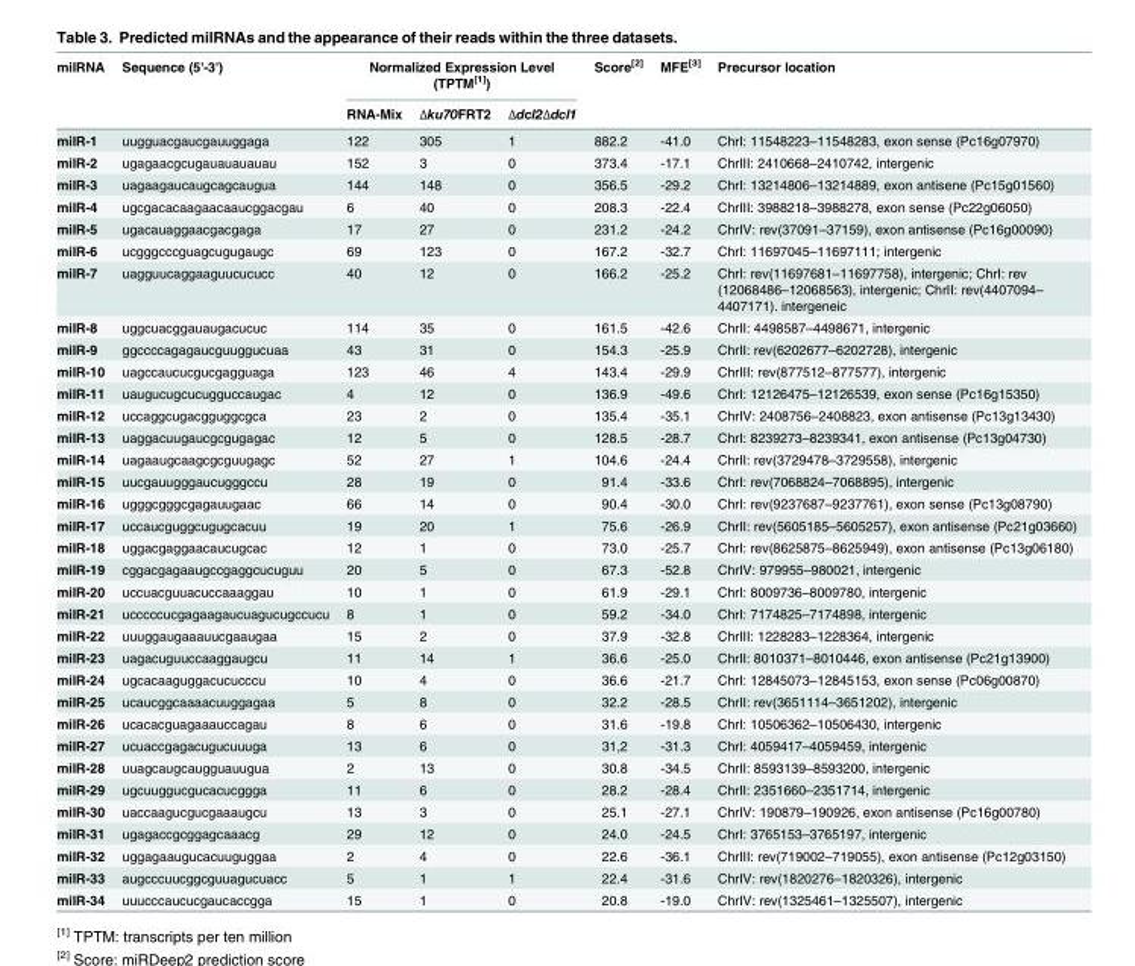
<table><thead><tr><td rowspan="2">milRNA</td><td rowspan="2">Sequence (5&#x27;-3&#x27;)</td><td colspan="3">Normalized Expression Level (TPTM<sup>[1]</sup>)</td><td rowspan="2">Score<sup>[2]</sup></td><td rowspan="2">MFE<sup>[3]</sup></td><td rowspan="2">Precursor location</td></tr><tr><td>RNA-Mix</td><td>Δku70FRT2</td><td>Δdcl2Δdcl1</td></tr></thead><tbody><tr><td>milR-1</td><td>uugguacgaucgauuggaga</td><td>122</td><td>305</td><td>1</td><td>882.2</td><td>-41.0</td><td>ChrI: 11548223–11548283, exon sense (Pc16g07970)</td></tr><tr><td>milR-2</td><td>ugagaacgcugauauauauau</td><td>152</td><td>3</td><td>0</td><td>373.4</td><td>-17.1</td><td>ChrIII: 2410668–2410742, intergenic</td></tr><tr><td>milR-3</td><td>uagaagaucaugcagcaugua</td><td>144</td><td>148</td><td>0</td><td>356.5</td><td>-29.2</td><td>ChrI: 13214806–13214889, exon antisene (Pc15g01560)</td></tr><tr><td>milR-4</td><td>ugcgacacaagaacaaucggacgau</td><td>6</td><td>40</td><td>0</td><td>208.3</td><td>-22.4</td><td>ChrIII: 3988218–3988278, exon sense (Pc22g06050)</td></tr><tr><td>milR-5</td><td>ugacauaggaacgacgaga</td><td>17</td><td>27</td><td>0</td><td>231.2</td><td>-24.2</td><td>ChrIV: rev(37091–37159), exon antisense (Pc16g00090)</td></tr><tr><td>milR-6</td><td>ucgggcccguagcugugaugc</td><td>69</td><td>123</td><td>0</td><td>167.2</td><td>-32.7</td><td>ChrI: 11697045–11697111; intergenic</td></tr><tr><td>milR-7</td><td>uagguucaggaaguucucucc</td><td>40</td><td>12</td><td>0</td><td>166.2</td><td>-25.2</td><td>ChrI: rev(11697681–11697758), intergenic; ChrI: rev (12068486–12068563), intergenic; ChrII: rev(4407094– 4407171). intergeneic</td></tr><tr><td>milR-8</td><td>uggcuacggauaugacucuc</td><td>114</td><td>35</td><td>0</td><td>161.5</td><td>-42.6</td><td>ChrII: 4498587–4498671, intergenic</td></tr><tr><td>milR-9</td><td>ggccccagagaucguuggucuaa</td><td>43</td><td>31</td><td>0</td><td>154.3</td><td>-25.9</td><td>ChrII: rev(6202677–6202728), intergenic</td></tr><tr><td>milR-10</td><td>uagccaucucgucgagguaga</td><td>123</td><td>46</td><td>4</td><td>143.4</td><td>-29.9</td><td>ChrIII: rev(877512–877577), intergenic</td></tr><tr><td>milR-11</td><td>uaugucugcucugguccaugac</td><td>4</td><td>12</td><td>0</td><td>136.9</td><td>-49.6</td><td>ChrI: 12126475–12126539, exon sense (Pc16g15350)</td></tr><tr><td>milR-12</td><td>uccaggcugacgguggcgca</td><td>23</td><td>2</td><td>0</td><td>135.4</td><td>-35.1</td><td>ChrIV: 2408756–2408823, exon antisense (Pc13g13430)</td></tr><tr><td>milR-13</td><td>uaggacuugaucgcgugagac</td><td>12</td><td>5</td><td>0</td><td>128.5</td><td>-28.7</td><td>ChrI: 8239273–8239341, exon antisense (Pc13g04730)</td></tr><tr><td>milR-14</td><td>uagaaugcaagcgcguugagc</td><td>52</td><td>27</td><td>1</td><td>104.6</td><td>-24.4</td><td>ChrII: rev(3729478–3729558), intergenic</td></tr><tr><td>milR-15</td><td>uucgauugggaucugggccu</td><td>28</td><td>19</td><td>0</td><td>91.4</td><td>-33.6</td><td>ChrI: rev(7068824–7068895), intergenic</td></tr><tr><td>milR-16</td><td>ugggcgggcgagauugaac</td><td>66</td><td>14</td><td>0</td><td>90.4</td><td>-30.0</td><td>ChrI: rev(9237687–9237761), exon sense (Pc13g08790)</td></tr><tr><td>milR-17</td><td>uccaucguggcugugcacuu</td><td>19</td><td>20</td><td>1</td><td>75.6</td><td>-26.9</td><td>ChrII: rev(5605185–5605257), exon antisense (Pc21g03660)</td></tr><tr><td>milR-18</td><td>uggacgaggaacaucugcac</td><td>12</td><td>1</td><td>0</td><td>73.0</td><td>-25.7</td><td>ChrI: rev(8625875–8625949), exon antisense (Pc13g06180)</td></tr><tr><td>milR-19</td><td>cggacgagaaugccgaggcucuguu</td><td>20</td><td>5</td><td>0</td><td>67.3</td><td>-52.8</td><td>ChrIV: 979955–980021, intergenic</td></tr><tr><td>milR-20</td><td>uccuacguuacuccaaaggau</td><td>10</td><td>1</td><td>0</td><td>61.9</td><td>-29.1</td><td>ChrI: 8009736–8009780, intergenic</td></tr><tr><td>milR-21</td><td>ucccccucgagaagaucuagucugccucu</td><td>8</td><td>1</td><td>0</td><td>59.2</td><td>-34.0</td><td>ChrI: 7174825–7174898, intergenic</td></tr><tr><td>milR-22</td><td>uuuggaugaaauucgaaugaa</td><td>15</td><td>2</td><td>0</td><td>37.9</td><td>-32.8</td><td>ChrIII: 1228283–1228364, intergenic</td></tr><tr><td>milR-23</td><td>uagacuguuccaaggaugcu</td><td>11</td><td>14</td><td>1</td><td>36.6</td><td>-25.0</td><td>ChrII: 8010371–8010446, exon antisense (Pc21g13900)</td></tr><tr><td>milR-24</td><td>ugcacaaguggacucucccu</td><td>10</td><td>4</td><td>0</td><td>36.6</td><td>-21.7</td><td>ChrI: 12845073–12845153, exon sense (Pc06g00870)</td></tr><tr><td>milR-25</td><td>ucaucggcaaaacuuggagaa</td><td>5</td><td>8</td><td>0</td><td>32.2</td><td>-28.5</td><td>ChrII: rev(3651114–3651202), intergenic</td></tr><tr><td>milR-26</td><td>ucacacguagaaauccagau</td><td>8</td><td>6</td><td>0</td><td>31.6</td><td>-19.8</td><td>ChrI: 10506362–10506430, intergenic</td></tr><tr><td>milR-27</td><td>ucuaccgagacugucuuuga</td><td>13</td><td>6</td><td>0</td><td>31,2</td><td>-31.3</td><td>ChrI: 4059417–4059459, intergenic</td></tr><tr><td>milR-28</td><td>uuagcaugcaugguauugua</td><td>2</td><td>13</td><td>0</td><td>30.8</td><td>-34.5</td><td>ChrII: 8593139–8593200, intergenic</td></tr><tr><td>milR-29</td><td>ugcuuggucgucacucggga</td><td>11</td><td>6</td><td>0</td><td>28.2</td><td>-28.4</td><td>ChrII: 2351660–2351714, intergenic</td></tr><tr><td>milR-30</td><td>uaccaagucgucgaaaugcu</td><td>13</td><td>3</td><td>0</td><td>25.1</td><td>-27.1</td><td>ChrIV: 190879–190926, exon antisense (Pc16g00780)</td></tr><tr><td>milR-31</td><td>ugagaccgcggagcaaacg</td><td>29</td><td>12</td><td>0</td><td>24.0</td><td>-24.5</td><td>ChrI: 3765153–3765197, intergenic</td></tr><tr><td>milR-32</td><td>uggagaaugucacuuguggaa</td><td>2</td><td>4</td><td>0</td><td>22.6</td><td>-36.1</td><td>ChrIII: rev(719002–719055), exon antisense (Pc12g03150)</td></tr><tr><td>milR-33</td><td>augcccuucggcguuagucuacc</td><td>5</td><td>1</td><td>1</td><td>22.4</td><td>-31.6</td><td>ChrIV: rev(1820276–1820326), intergenic</td></tr><tr><td>milR-34</td><td>uuucccaucucgaucaccgga</td><td>15</td><td>1</td><td>0</td><td>20.8</td><td>-19.0</td><td>ChrIV: rev(1325461–1325507), intergenic</td></tr></tbody></table>